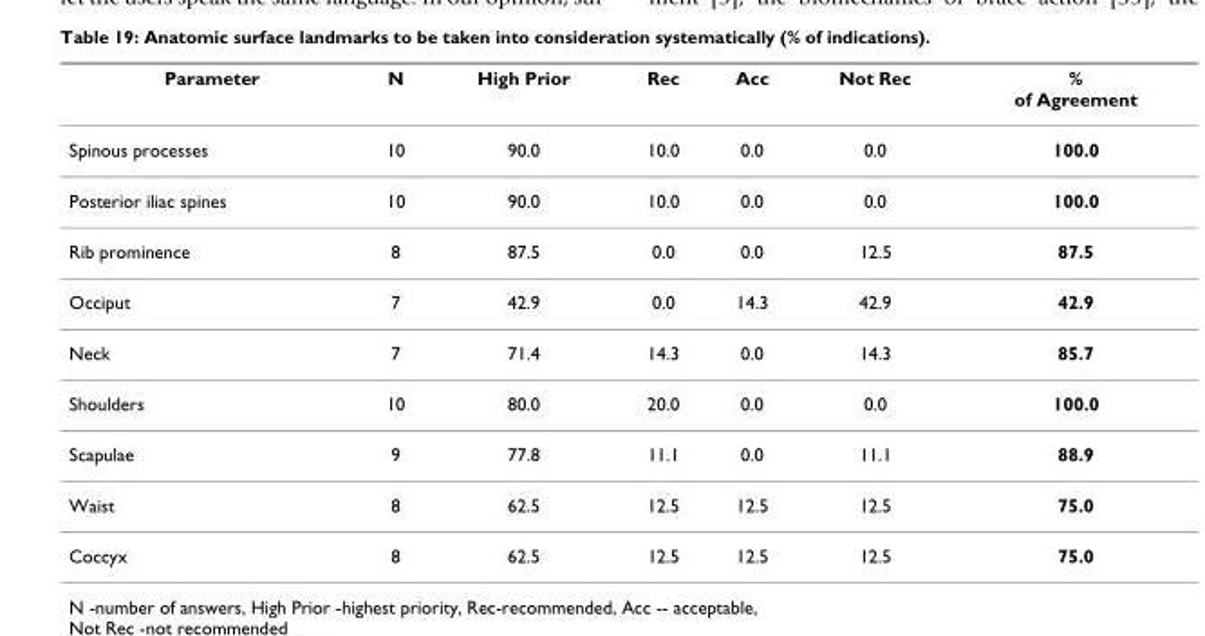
<table><thead><tr><td>Parameter</td><td>N</td><td>High Prior</td><td>Rec</td><td>Acc</td><td>Not Rec</td><td>% of Agreement</td></tr></thead><tbody><tr><td>Spinous processes</td><td>10</td><td>90.0</td><td>10.0</td><td>0.0</td><td>0.0</td><td>100.0</td></tr><tr><td>Posterior iliac spines</td><td>10</td><td>90.0</td><td>10.0</td><td>0.0</td><td>0.0</td><td>100.0</td></tr><tr><td>Rib prominence</td><td>8</td><td>87.5</td><td>0.0</td><td>0.0</td><td>12.5</td><td>87.5</td></tr><tr><td>Occiput</td><td>7</td><td>42.9</td><td>0.0</td><td>14.3</td><td>42.9</td><td>42.9</td></tr><tr><td>Neck</td><td>7</td><td>71.4</td><td>14.3</td><td>0.0</td><td>14.3</td><td>85.7</td></tr><tr><td>Shoulders</td><td>10</td><td>80.0</td><td>20.0</td><td>0.0</td><td>0.0</td><td>100.0</td></tr><tr><td>Scapulae</td><td>9</td><td>77.8</td><td>11.1</td><td>0.0</td><td>11.1</td><td>88.9</td></tr><tr><td>Waist</td><td>8</td><td>62.5</td><td>12.5</td><td>12.5</td><td>12.5</td><td>75.0</td></tr><tr><td>Coccyx</td><td>8</td><td>62.5</td><td>12.5</td><td>12.5</td><td>12.5</td><td>75.0</td></tr></tbody></table>